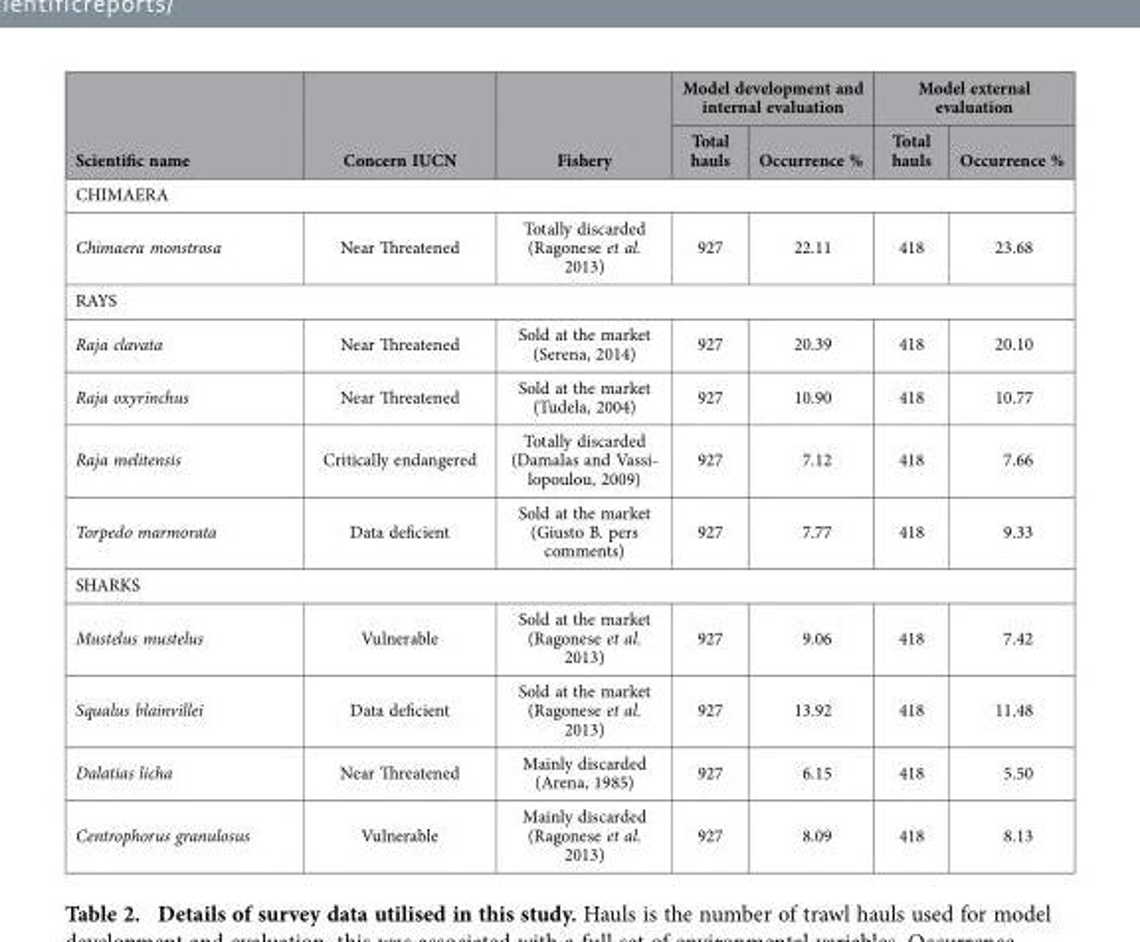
<table><thead><tr><td rowspan="2">Scientific name</td><td rowspan="2">Concern IUCN</td><td rowspan="2">Fishery</td><td colspan="2">Model development and internal evaluation</td><td colspan="2">Model external evaluation</td></tr><tr><td>Total hauls</td><td>Occurrence %</td><td>Total hauls</td><td>Occurrence %</td></tr></thead><tbody><tr><td colspan="7">CHIMAERA</td></tr><tr><td>Chimaera monstrosa</td><td>Near Threatened</td><td>Totally discarded (Ragonese et al. 2013)</td><td>927</td><td>22.11</td><td>418</td><td>23.68</td></tr><tr><td colspan="7">RAYS</td></tr><tr><td>Raja clavata</td><td>Near Threatened</td><td>Sold at the market (Serena, 2014)</td><td>927</td><td>20.39</td><td>418</td><td>20.10</td></tr><tr><td>Raja oxyrinchus</td><td>Near Threatened</td><td>Sold at the market (Tudela, 2004)</td><td>927</td><td>10.90</td><td>418</td><td>10.77</td></tr><tr><td>Raja melitensis</td><td>Critically endangered</td><td>Totally discarded (Damalas and Vassi- lopoulou, 2009)</td><td>927</td><td>7.12</td><td>418</td><td>7.66</td></tr><tr><td>Torpedo marmorata</td><td>Data deficient</td><td>Sold at the market (Giusto B. pers comments)</td><td>927</td><td>7.77</td><td>418</td><td>9.33</td></tr><tr><td colspan="7">SHARKS</td></tr><tr><td>Mustelus mustelus</td><td>Vulnerable</td><td>Sold at the market (Ragonese et al. 2013)</td><td>927</td><td>9.06</td><td>418</td><td>7.42</td></tr><tr><td>Squalus blainvillei</td><td>Data deficient</td><td>Sold at the market (Ragonese et al. 2013)</td><td>927</td><td>13.92</td><td>418</td><td>11.48</td></tr><tr><td>Dalatias licha</td><td>Near Threatened</td><td>Mainly discarded (Arena, 1985)</td><td>927</td><td>6.15</td><td>418</td><td>5.50</td></tr><tr><td>Centrophorus granulosus</td><td>Vulnerable</td><td>Mainly discarded (Ragonese et al. 2013)</td><td>927</td><td>8.09</td><td>418</td><td>8.13</td></tr></tbody></table>